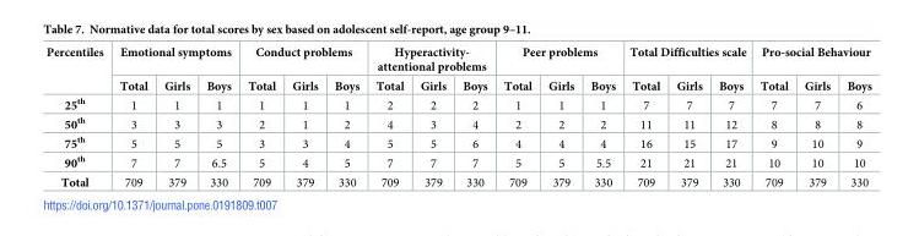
<table><thead><tr><td rowspan="2">Percentiles</td><td colspan="3">Emotional symptoms</td><td colspan="3">Conduct problems</td><td colspan="3">Hyperactivity- attentional problems</td><td colspan="3">Peer problems</td><td colspan="3">Total Difficulties scale</td><td colspan="3">Pro-social Behaviour</td></tr><tr><td>Total</td><td>Girls</td><td>Boys</td><td>Total</td><td>Girls</td><td>Boys</td><td>Total</td><td>Girls</td><td>Boys</td><td>Total</td><td>Girls</td><td>Boys</td><td>Total</td><td>Girls</td><td>Boys</td><td>Total</td><td>Girls</td><td>Boys</td></tr></thead><tbody><tr><td>25<sup>th</sup></td><td>1</td><td>1</td><td>1</td><td>1</td><td>1</td><td>1</td><td>2</td><td>2</td><td>2</td><td>1</td><td>1</td><td>1</td><td>7</td><td>7</td><td>7</td><td>7</td><td>7</td><td>6</td></tr><tr><td>50<sup>th</sup></td><td>3</td><td>3</td><td>3</td><td>2</td><td>1</td><td>2</td><td>4</td><td>3</td><td>4</td><td>2</td><td>2</td><td>2</td><td>11</td><td>11</td><td>12</td><td>8</td><td>8</td><td>8</td></tr><tr><td>75<sup>th</sup></td><td>5</td><td>5</td><td>5</td><td>3</td><td>3</td><td>4</td><td>5</td><td>5</td><td>6</td><td>4</td><td>4</td><td>4</td><td>16</td><td>15</td><td>17</td><td>9</td><td>10</td><td>9</td></tr><tr><td>90<sup>th</sup></td><td>7</td><td>7</td><td>6.5</td><td>5</td><td>4</td><td>5</td><td>7</td><td>7</td><td>7</td><td>5</td><td>5</td><td>5.5</td><td>21</td><td>21</td><td>21</td><td>10</td><td>10</td><td>10</td></tr><tr><td>Total</td><td>709</td><td>379</td><td>330</td><td>709</td><td>379</td><td>330</td><td>709</td><td>379</td><td>330</td><td>709</td><td>379</td><td>330</td><td>709</td><td>379</td><td>330</td><td>709</td><td>379</td><td>330</td></tr></tbody></table>